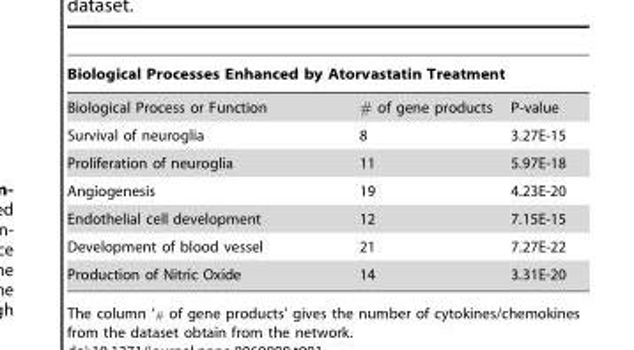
<table><thead><tr><td colspan="3">Biological Processes Enhanced by Atorvastatin Treatment</td></tr><tr><td>Biological Process or Function</td><td># of gene products</td><td>P-value</td></tr></thead><tbody><tr><td>Survival of neuroglia</td><td>8</td><td>3.27E-15</td></tr><tr><td>Proliferation of neuroglia</td><td>11</td><td>5.97E-18</td></tr><tr><td>Angiogenesis</td><td>19</td><td>4.23E-20</td></tr><tr><td>Endothelial cell development</td><td>12</td><td>7.15E-15</td></tr><tr><td>Development of blood vessel</td><td>21</td><td>7.27E-22</td></tr><tr><td>Production of Nitric Oxide</td><td>14</td><td>3.31E-20</td></tr></tbody></table>